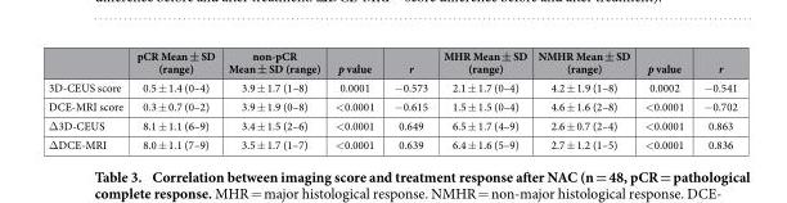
<table><thead><tr><td></td><td>pCR Mean ± SD (range)</td><td>non-pCR Mean ± SD (range)</td><td>p value</td><td>r</td><td>MHR Mean ± SD (range)</td><td>NMHR Mean ± SD (range)</td><td>p value</td><td>r</td></tr></thead><tbody><tr><td>3D-CEUS score</td><td>0.5 ± 1.4 (0–4)</td><td>3.9 ± 1.7 (1–8)</td><td>0.0001</td><td>− 0.573</td><td>2.1 ± 1.7 (0–4)</td><td>4.2 ± 1.9 (1–8)</td><td>0.0002</td><td>− 0.541</td></tr><tr><td>DCE-MRI score</td><td>0.3 ± 0.7 (0–2)</td><td>3.9 ± 1.9 (0–8)</td><td>&lt; 0.0001</td><td>− 0.615</td><td>1.5 ± 1.5 (0–4)</td><td>4.6 ± 1.6 (2–8)</td><td>&lt; 0.0001</td><td>− 0.702</td></tr><tr><td>Δ 3D-CEUS</td><td>8.1 ± 1.1 (6–9)</td><td>3.4 ± 1.5 (2–6)</td><td>&lt; 0.0001</td><td>0.649</td><td>6.5 ± 1.7 (4–9)</td><td>2.6 ± 0.7 (2–4)</td><td>&lt; 0.0001</td><td>0.863</td></tr><tr><td>Δ DCE-MRI</td><td>8.0 ± 1.1 (7–9)</td><td>3.5 ± 1.7 (1–7)</td><td>&lt; 0.0001</td><td>0.639</td><td>6.4 ± 1.6 (5–9)</td><td>2.7 ± 1.2 (1–5)</td><td>&lt; 0.0001</td><td>0.836</td></tr></tbody></table>